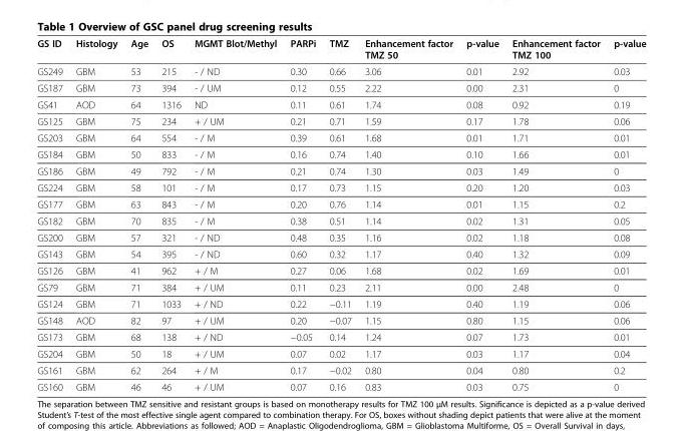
<table><thead><tr><td>GS ID</td><td>Histology</td><td>Age</td><td>OS</td><td>MGMT Blot/Methyl</td><td>PARPi</td><td>TMZ</td><td>Enhancement factor TMZ 50</td><td>p-value</td><td>Enhancement factor TMZ 100</td><td>p-value</td></tr></thead><tbody><tr><td>GS249</td><td>GBM</td><td>53</td><td>215</td><td>- / ND</td><td>0.30</td><td>0.66</td><td>3.06</td><td>0.01</td><td>2.92</td><td>0.03</td></tr><tr><td>GS187</td><td>GBM</td><td>73</td><td>394</td><td>- / UM</td><td>0.12</td><td>0.55</td><td>2.22</td><td>0.00</td><td>2.31</td><td>0</td></tr><tr><td>GS41</td><td>AOD</td><td>64</td><td>1316</td><td>ND</td><td>0.11</td><td>0.61</td><td>1.74</td><td>0.08</td><td>0.92</td><td>0.19</td></tr><tr><td>GS125</td><td>GBM</td><td>75</td><td>234</td><td>+ / UM</td><td>0.21</td><td>0.71</td><td>1.59</td><td>0.17</td><td>1.78</td><td>0.06</td></tr><tr><td>GS203</td><td>GBM</td><td>64</td><td>554</td><td>- / M</td><td>0.39</td><td>0.61</td><td>1.68</td><td>0.01</td><td>1.71</td><td>0.01</td></tr><tr><td>GS184</td><td>GBM</td><td>50</td><td>833</td><td>- / M</td><td>0.16</td><td>0.74</td><td>1.40</td><td>0.10</td><td>1.66</td><td>0.01</td></tr><tr><td>GS186</td><td>GBM</td><td>49</td><td>792</td><td>- / M</td><td>0.21</td><td>0.74</td><td>1.30</td><td>0.03</td><td>1.49</td><td>0</td></tr><tr><td>GS224</td><td>GBM</td><td>58</td><td>101</td><td>- / M</td><td>0.17</td><td>0.73</td><td>1.15</td><td>0.20</td><td>1.20</td><td>0.03</td></tr><tr><td>GS177</td><td>GBM</td><td>63</td><td>843</td><td>- / M</td><td>0.20</td><td>0.76</td><td>1.14</td><td>0.01</td><td>1.15</td><td>0.2</td></tr><tr><td>GS182</td><td>GBM</td><td>70</td><td>835</td><td>- / M</td><td>0.38</td><td>0.51</td><td>1.14</td><td>0.02</td><td>1.31</td><td>0.05</td></tr><tr><td>GS200</td><td>GBM</td><td>57</td><td>321</td><td>- / ND</td><td>0.48</td><td>0.35</td><td>1.16</td><td>0.02</td><td>1.18</td><td>0.08</td></tr><tr><td>GS143</td><td>GBM</td><td>54</td><td>395</td><td>- / ND</td><td>0.60</td><td>0.32</td><td>1.17</td><td>0.40</td><td>1.32</td><td>0.09</td></tr><tr><td>GS126</td><td>GBM</td><td>41</td><td>962</td><td>+ / M</td><td>0.27</td><td>0.06</td><td>1.68</td><td>0.02</td><td>1.69</td><td>0.01</td></tr><tr><td>GS79</td><td>GBM</td><td>71</td><td>384</td><td>+ / UM</td><td>0.11</td><td>0.23</td><td>2.11</td><td>0.00</td><td>2.48</td><td>0</td></tr><tr><td>GS124</td><td>GBM</td><td>71</td><td>1033</td><td>+ / ND</td><td>0.22</td><td>−0.11</td><td>1.19</td><td>0.40</td><td>1.19</td><td>0.06</td></tr><tr><td>GS148</td><td>AOD</td><td>82</td><td>97</td><td>+ / UM</td><td>0.20</td><td>−0.07</td><td>1.15</td><td>0.80</td><td>1.15</td><td>0.06</td></tr><tr><td>GS173</td><td>GBM</td><td>68</td><td>138</td><td>+ / ND</td><td>−0.05</td><td>0.14</td><td>1.24</td><td>0.07</td><td>1.73</td><td>0.01</td></tr><tr><td>GS204</td><td>GBM</td><td>50</td><td>18</td><td>+ / UM</td><td>0.07</td><td>0.02</td><td>1.17</td><td>0.03</td><td>1.17</td><td>0.04</td></tr><tr><td>GS161</td><td>GBM</td><td>62</td><td>264</td><td>+ / M</td><td>0.17</td><td>−0.02</td><td>0.80</td><td>0.04</td><td>0.80</td><td>0.2</td></tr><tr><td>GS160</td><td>GBM</td><td>46</td><td>46</td><td>+ / UM</td><td>0.07</td><td>0.16</td><td>0.83</td><td>0.03</td><td>0.75</td><td>0</td></tr></tbody></table>